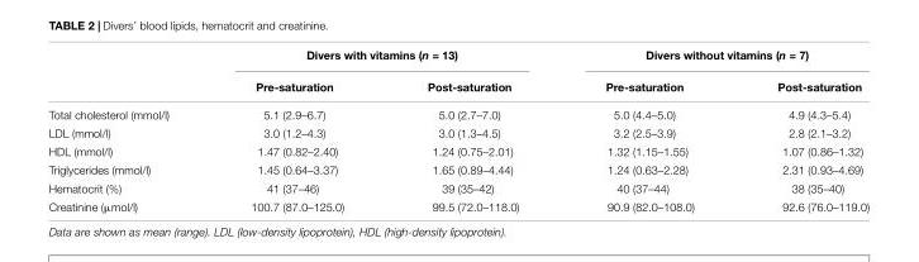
<table><thead><tr><td rowspan="2"></td><td colspan="2">Divers with vitamins (n = 13)</td><td colspan="2">Divers without vitamins (n = 7)</td></tr><tr><td>Pre-saturation</td><td>Post-saturation</td><td>Pre-saturation</td><td>Post-saturation</td></tr></thead><tbody><tr><td>Total cholesterol (mmol/l)</td><td>5.1 (2.9–6.7)</td><td>5.0 (2.7–7.0)</td><td>5.0 (4.4–5.0)</td><td>4.9 (4.3–5.4)</td></tr><tr><td>LDL (mmol/l)</td><td>3.0 (1.2–4.3)</td><td>3.0 (1.3–4.5)</td><td>3.2 (2.5–3.9)</td><td>2.8 (2.1–3.2)</td></tr><tr><td>HDL (mmol/l)</td><td>1.47 (0.82–2.40)</td><td>1.24 (0.75–2.01)</td><td>1.32 (1.15–1.55)</td><td>1.07 (0.86–1.32)</td></tr><tr><td>Triglycerides (mmol/l)</td><td>1.45 (0.64–3.37)</td><td>1.65 (0.89–4.44)</td><td>1.24 (0.63–2.28)</td><td>2.31 (0.93–4.69)</td></tr><tr><td>Hematocrit (%)</td><td>41 (37–46)</td><td>39 (35–42)</td><td>40 (37–44)</td><td>38 (35–40)</td></tr><tr><td>Creatinine (µmol/l)</td><td>100.7 (87.0–125.0)</td><td>99.5 (72.0–118.0)</td><td>90.9 (82.0–108.0)</td><td>92.6 (76.0–119.0)</td></tr></tbody></table>